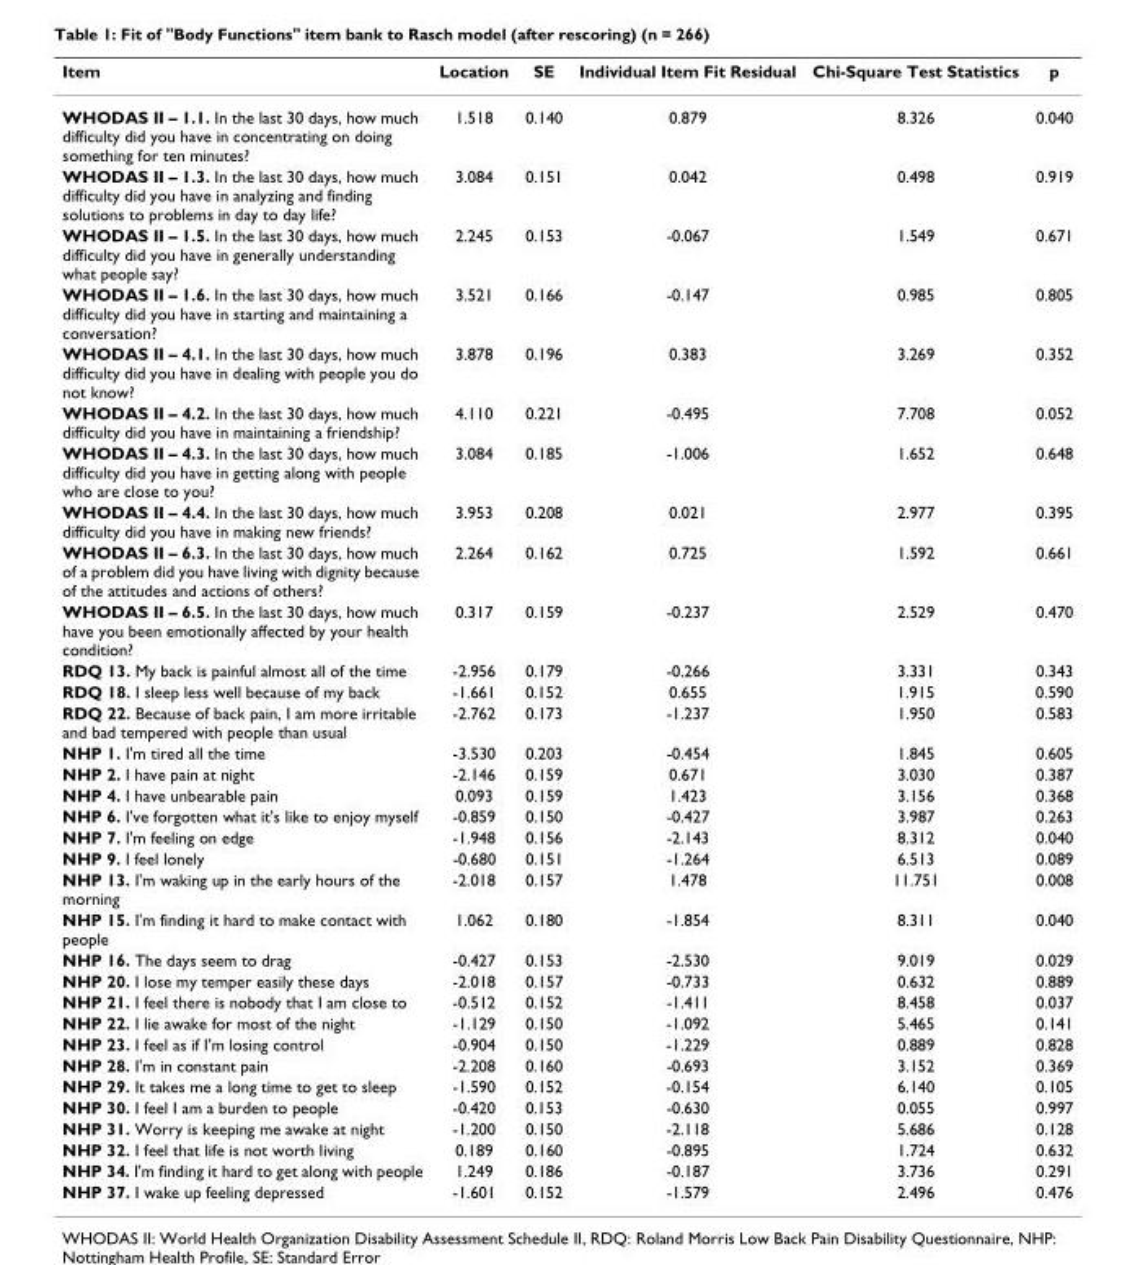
<table><thead><tr><td>Item</td><td>Location</td><td>SE</td><td>Individual Item Fit Residual</td><td>Chi-Square Test Statistics</td><td>p</td></tr></thead><tbody><tr><td>WHODAS II – 1.1. In the last 30 days, how much difficulty did you have in concentrating on doing something for ten minutes?</td><td>1.518</td><td>0.140</td><td>0.879</td><td>8.326</td><td>0.040</td></tr><tr><td>WHODAS II – 1.3. In the last 30 days, how much difficulty did you have in analyzing and finding solutions to problems in day to day life?</td><td>3.084</td><td>0.151</td><td>0.042</td><td>0.498</td><td>0.919</td></tr><tr><td>WHODAS II – 1.5. In the last 30 days, how much difficulty did you have in generally understanding what people say?</td><td>2.245</td><td>0.153</td><td>-0.067</td><td>1.549</td><td>0.671</td></tr><tr><td>WHODAS II – 1.6. In the last 30 days, how much difficulty did you have in starting and maintaining a conversation?</td><td>3.521</td><td>0.166</td><td>-0.147</td><td>0.985</td><td>0.805</td></tr><tr><td>WHODAS II – 4.1. In the last 30 days, how much difficulty did you have in dealing with people you do not know?</td><td>3.878</td><td>0.196</td><td>0.383</td><td>3.269</td><td>0.352</td></tr><tr><td>WHODAS II – 4.2. In the last 30 days, how much difficulty did you have in maintaining a friendship?</td><td>4.110</td><td>0.221</td><td>-0.495</td><td>7.708</td><td>0.052</td></tr><tr><td>WHODAS II – 4.3. In the last 30 days, how much difficulty did you have in getting along with people who are close to you?</td><td>3.084</td><td>0.185</td><td>-1.006</td><td>1.652</td><td>0.648</td></tr><tr><td>WHODAS II – 4.4. In the last 30 days, how much difficulty did you have in making new friends?</td><td>3.953</td><td>0.208</td><td>0.021</td><td>2.977</td><td>0.395</td></tr><tr><td>WHODAS II – 6.3. In the last 30 days, how much of a problem did you have living with dignity because of the attitudes and actions of others?</td><td>2.264</td><td>0.162</td><td>0.725</td><td>1.592</td><td>0.661</td></tr><tr><td>WHODAS II – 6.5. In the last 30 days, how much have you been emotionally affected by your health condition?</td><td>0.317</td><td>0.159</td><td>-0.237</td><td>2.529</td><td>0.470</td></tr><tr><td>RDQ 13. My back is painful almost all of the time</td><td>-2.956</td><td>0.179</td><td>-0.266</td><td>3.331</td><td>0.343</td></tr><tr><td>RDQ 18. I sleep less well because of my back</td><td>-1.661</td><td>0.152</td><td>0.655</td><td>1.915</td><td>0.590</td></tr><tr><td>RDQ 22. Because of back pain, I am more irritable and bad tempered with people than usual</td><td>-2.762</td><td>0.173</td><td>-1.237</td><td>1.950</td><td>0.583</td></tr><tr><td>NHP 1. I&#x27;m tired all the time</td><td>-3.530</td><td>0.203</td><td>-0.454</td><td>1.845</td><td>0.605</td></tr><tr><td>NHP 2. I have pain at night</td><td>-2.146</td><td>0.159</td><td>0.671</td><td>3.030</td><td>0.387</td></tr><tr><td>NHP 4. I have unbearable pain</td><td>0.093</td><td>0.159</td><td>1.423</td><td>3.156</td><td>0.368</td></tr><tr><td>NHP 6. I&#x27;ve forgotten what it&#x27;s like to enjoy myself</td><td>-0.859</td><td>0.150</td><td>-0.427</td><td>3.987</td><td>0.263</td></tr><tr><td>NHP 7. I&#x27;m feeling on edge</td><td>-1.948</td><td>0.156</td><td>-2.143</td><td>8.312</td><td>0.040</td></tr><tr><td>NHP 9. I feel lonely</td><td>-0.680</td><td>0.151</td><td>-1.264</td><td>6.513</td><td>0.089</td></tr><tr><td>NHP 13. I&#x27;m waking up in the early hours of the morning</td><td>-2.018</td><td>0.157</td><td>1.478</td><td>11.751</td><td>0.008</td></tr><tr><td>NHP 15. I&#x27;m finding it hard to make contact with people</td><td>1.062</td><td>0.180</td><td>-1.854</td><td>8.311</td><td>0.040</td></tr><tr><td>NHP 16. The days seem to drag</td><td>-0.427</td><td>0.153</td><td>-2.530</td><td>9.019</td><td>0.029</td></tr><tr><td>NHP 20. I lose my temper easily these days</td><td>-2.018</td><td>0.157</td><td>-0.733</td><td>0.632</td><td>0.889</td></tr><tr><td>NHP 21. I feel there is nobody that I am close to</td><td>-0.512</td><td>0.152</td><td>-1.411</td><td>8.458</td><td>0.037</td></tr><tr><td>NHP 22. I lie awake for most of the night</td><td>-1.129</td><td>0.150</td><td>-1.092</td><td>5.465</td><td>0.141</td></tr><tr><td>NHP 23. I feel as if I&#x27;m losing control</td><td>-0.904</td><td>0.150</td><td>-1.229</td><td>0.889</td><td>0.828</td></tr><tr><td>NHP 28. I&#x27;m in constant pain</td><td>-2.208</td><td>0.160</td><td>-0.693</td><td>3.152</td><td>0.369</td></tr><tr><td>NHP 29. It takes me a long time to get to sleep</td><td>-1.590</td><td>0.152</td><td>-0.154</td><td>6.140</td><td>0.105</td></tr><tr><td>NHP 30. I feel I am a burden to people</td><td>-0.420</td><td>0.153</td><td>-0.630</td><td>0.055</td><td>0.997</td></tr><tr><td>NHP 31. Worry is keeping me awake at night</td><td>-1.200</td><td>0.150</td><td>-2.118</td><td>5.686</td><td>0.128</td></tr><tr><td>NHP 32. I feel that life is not worth living</td><td>0.189</td><td>0.160</td><td>-0.895</td><td>1.724</td><td>0.632</td></tr><tr><td>NHP 34. I&#x27;m finding it hard to get along with people</td><td>1.249</td><td>0.186</td><td>-0.187</td><td>3.736</td><td>0.291</td></tr><tr><td>NHP 37. I wake up feeling depressed</td><td>-1.601</td><td>0.152</td><td>-1.579</td><td>2.496</td><td>0.476</td></tr></tbody></table>